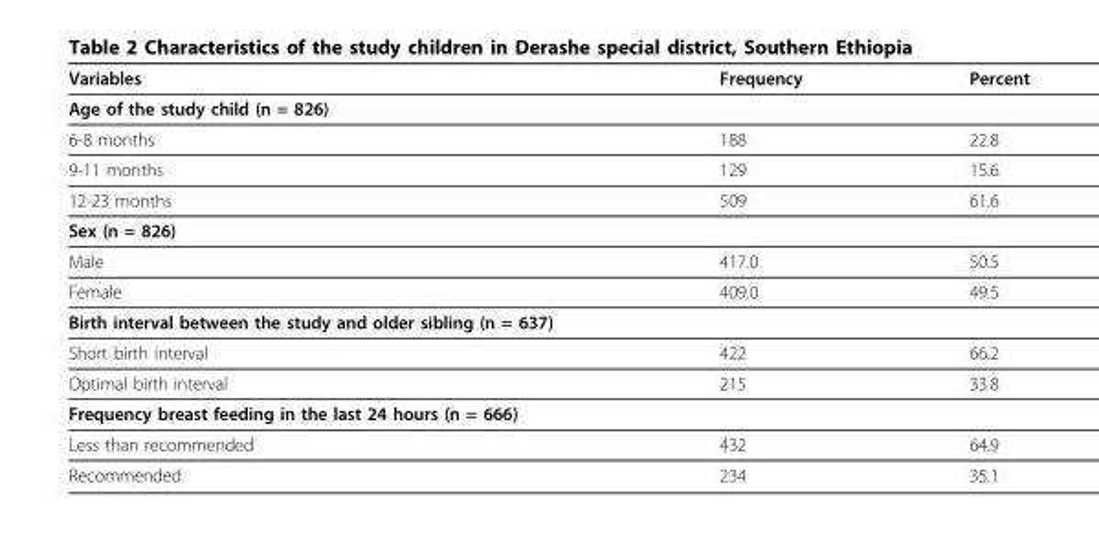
<table><thead><tr><td>Variables</td><td>Frequency</td><td>Percent</td></tr></thead><tbody><tr><td colspan="3">Age of the study child (n = 826)</td></tr><tr><td>6-8 months</td><td>188</td><td>22.8</td></tr><tr><td>9-11 months</td><td>129</td><td>15.6</td></tr><tr><td>12-23 months</td><td>509</td><td>61.6</td></tr><tr><td colspan="3">Sex (n = 826)</td></tr><tr><td>Male</td><td>417.0</td><td>50.5</td></tr><tr><td>Female</td><td>409.0</td><td>49.5</td></tr><tr><td colspan="3">Birth interval between the study and older sibling (n = 637)</td></tr><tr><td>Short birth interval</td><td>422</td><td>66.2</td></tr><tr><td>Optimal birth interval</td><td>215</td><td>33.8</td></tr><tr><td colspan="3">Frequency breast feeding in the last 24 hours (n = 666)</td></tr><tr><td>Less than recommended</td><td>432</td><td>64.9</td></tr><tr><td>Recommended</td><td>234</td><td>35.1</td></tr></tbody></table>